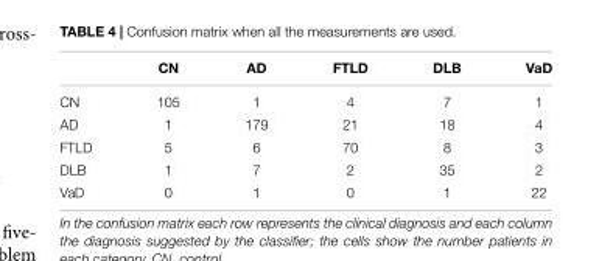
<table><thead><tr><td></td><td>CN</td><td>AD</td><td>FTLD</td><td>DLB</td><td>VaD</td></tr></thead><tbody><tr><td>CN</td><td>105</td><td>1</td><td>4</td><td>7</td><td>1</td></tr><tr><td>AD</td><td>1</td><td>179</td><td>21</td><td>18</td><td>4</td></tr><tr><td>FTLD</td><td>5</td><td>6</td><td>70</td><td>8</td><td>3</td></tr><tr><td>DLB</td><td>1</td><td>7</td><td>2</td><td>35</td><td>2</td></tr><tr><td>VaD</td><td>0</td><td>1</td><td>0</td><td>1</td><td>22</td></tr></tbody></table>